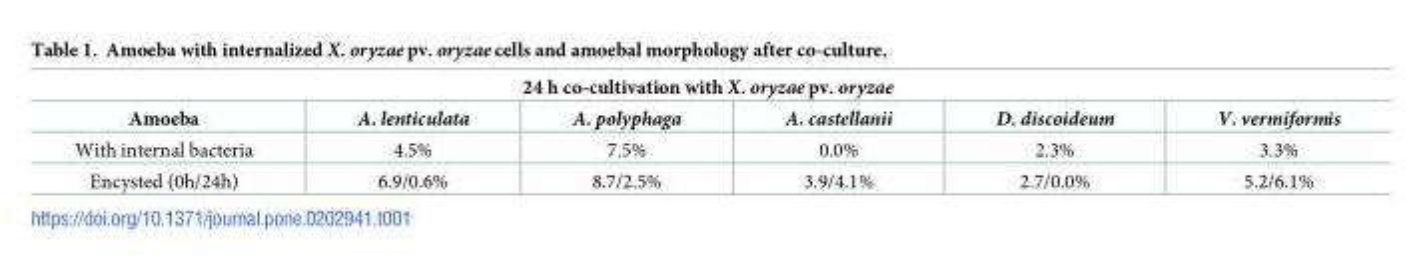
<table><thead><tr><td colspan="6">24 h co-cultivation with X. oryzae pv. oryzae</td></tr><tr><td>Amoeba</td><td>A. lenticulata</td><td>A. polyphaga</td><td>A. castellanii</td><td>D. discoideum</td><td>V. vermiformis</td></tr></thead><tbody><tr><td>With internal bacteria</td><td>4.5%</td><td>7.5%</td><td>0.0%</td><td>2.3%</td><td>3.3%</td></tr><tr><td>Encysted (0h/24h)</td><td>6.9/0.6%</td><td>8.7/2.5%</td><td>3.9/4.1%</td><td>2.7/0.0%</td><td>5.2/6.1%</td></tr></tbody></table>